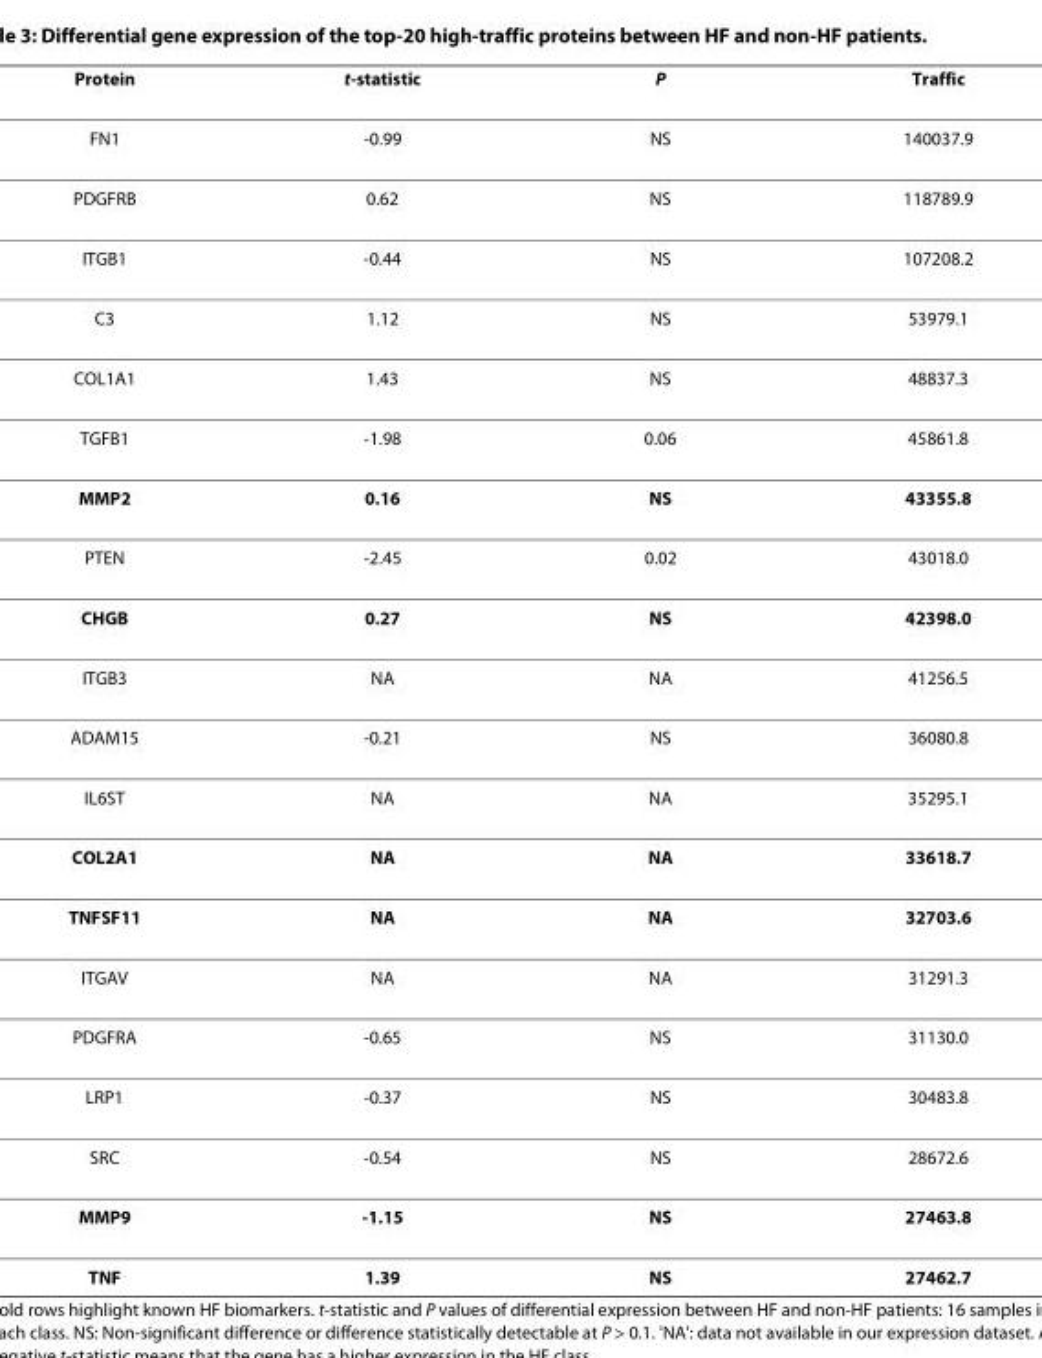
<table><thead><tr><td>Protein</td><td>t-statistic</td><td>P</td><td>Traffic</td></tr></thead><tbody><tr><td>FN1</td><td>-0.99</td><td>NS</td><td>140037.9</td></tr><tr><td>PDGFRB</td><td>0.62</td><td>NS</td><td>118789.9</td></tr><tr><td>ITGB1</td><td>-0.44</td><td>NS</td><td>107208.2</td></tr><tr><td>C3</td><td>1.12</td><td>NS</td><td>53979.1</td></tr><tr><td>COL1A1</td><td>1.43</td><td>NS</td><td>48837.3</td></tr><tr><td>TGFB1</td><td>-1.98</td><td>0.06</td><td>45861.8</td></tr><tr><td>MMP2</td><td>0.16</td><td>NS</td><td>43355.8</td></tr><tr><td>PTEN</td><td>-2.45</td><td>0.02</td><td>43018.0</td></tr><tr><td>CHGB</td><td>0.27</td><td>NS</td><td>42398.0</td></tr><tr><td>ITGB3</td><td>NA</td><td>NA</td><td>41256.5</td></tr><tr><td>ADAM15</td><td>-0.21</td><td>NS</td><td>36080.8</td></tr><tr><td>IL6ST</td><td>NA</td><td>NA</td><td>35295.1</td></tr><tr><td>COL2A1</td><td>NA</td><td>NA</td><td>33618.7</td></tr><tr><td>TNFSF11</td><td>NA</td><td>NA</td><td>32703.6</td></tr><tr><td>ITGAV</td><td>NA</td><td>NA</td><td>31291.3</td></tr><tr><td>PDGFRA</td><td>-0.65</td><td>NS</td><td>31130.0</td></tr><tr><td>LRP1</td><td>-0.37</td><td>NS</td><td>30483.8</td></tr><tr><td>SRC</td><td>-0.54</td><td>NS</td><td>28672.6</td></tr><tr><td>MMP9</td><td>-1.15</td><td>NS</td><td>27463.8</td></tr><tr><td>TNF</td><td>1.39</td><td>NS</td><td>27462.7</td></tr></tbody></table>